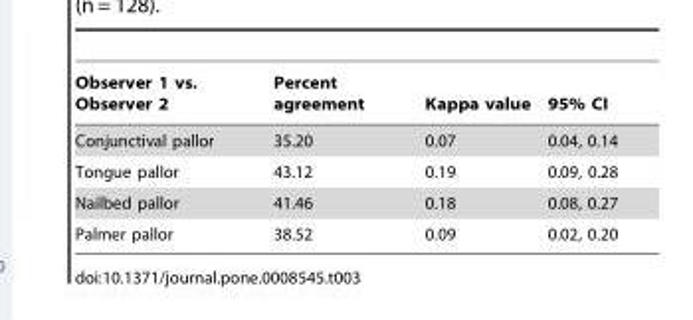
<table><thead><tr><td>Observer 1 vs. Observer 2</td><td>Percent agreement</td><td>Kappa value</td><td>95% CI</td></tr></thead><tbody><tr><td>Conjunctival pallor</td><td>35.20</td><td>0.07</td><td>0.04, 0.14</td></tr><tr><td>Tongue pallor</td><td>43.12</td><td>0.19</td><td>0.09, 0.28</td></tr><tr><td>Nailbed pallor</td><td>41.46</td><td>0.18</td><td>0.08, 0.27</td></tr><tr><td>Palmer pallor</td><td>38.52</td><td>0.09</td><td>0.02, 0.20</td></tr></tbody></table>